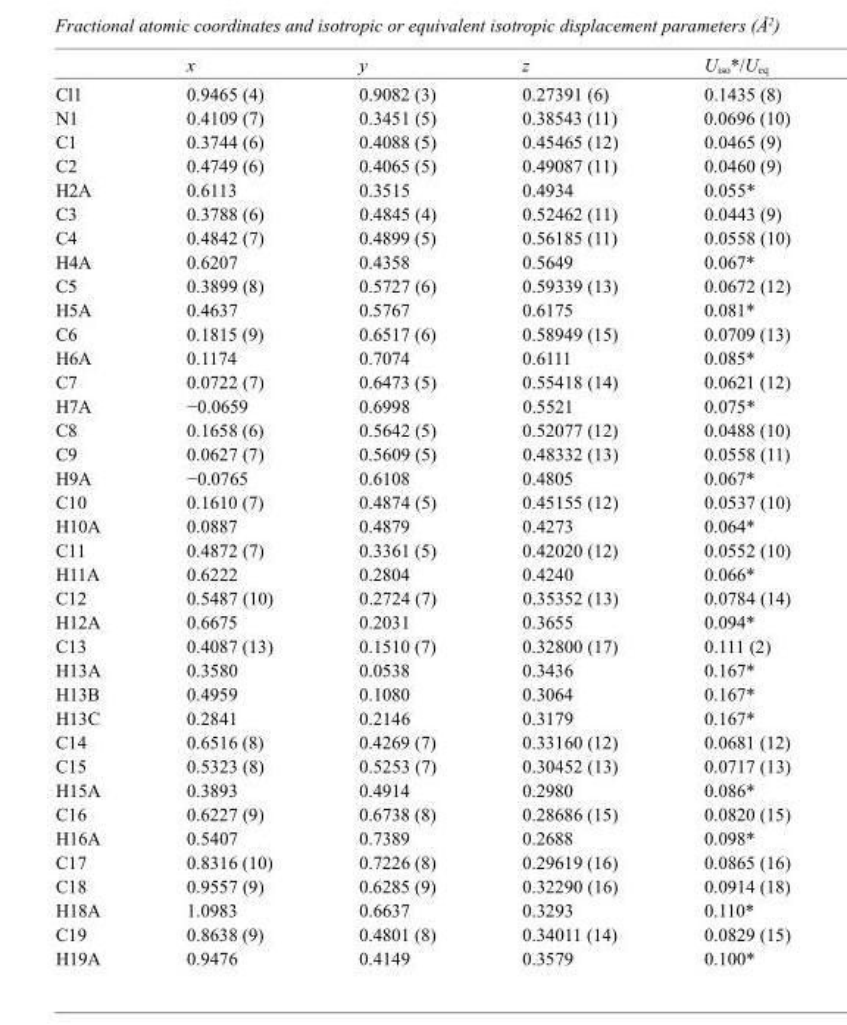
<table><thead><tr><td></td><td>x</td><td>y</td><td>z</td><td>U<sub>iso</sub>*/U<sub>eq</sub></td></tr></thead><tbody><tr><td>Cl1</td><td>0.9465 (4)</td><td>0.9082 (3)</td><td>0.27391 (6)</td><td>0.1435 (8)</td></tr><tr><td>N1</td><td>0.4109 (7)</td><td>0.3451 (5)</td><td>0.38543 (11)</td><td>0.0696 (10)</td></tr><tr><td>C1</td><td>0.3744 (6)</td><td>0.4088 (5)</td><td>0.45465 (12)</td><td>0.0465 (9)</td></tr><tr><td>C2</td><td>0.4749 (6)</td><td>0.4065 (5)</td><td>0.49087 (11)</td><td>0.0460 (9)</td></tr><tr><td>H2A</td><td>0.6113</td><td>0.3515</td><td>0.4934</td><td>0.055*</td></tr><tr><td>C3</td><td>0.3788 (6)</td><td>0.4845 (4)</td><td>0.52462 (11)</td><td>0.0443 (9)</td></tr><tr><td>C4</td><td>0.4842 (7)</td><td>0.4899 (5)</td><td>0.56185 (11)</td><td>0.0558 (10)</td></tr><tr><td>H4A</td><td>0.6207</td><td>0.4358</td><td>0.5649</td><td>0.067*</td></tr><tr><td>C5</td><td>0.3899 (8)</td><td>0.5727 (6)</td><td>0.59339 (13)</td><td>0.0672 (12)</td></tr><tr><td>H5A</td><td>0.4637</td><td>0.5767</td><td>0.6175</td><td>0.081*</td></tr><tr><td>C6</td><td>0.1815 (9)</td><td>0.6517 (6)</td><td>0.58949 (15)</td><td>0.0709 (13)</td></tr><tr><td>H6A</td><td>0.1174</td><td>0.7074</td><td>0.6111</td><td>0.085*</td></tr><tr><td>C7</td><td>0.0722 (7)</td><td>0.6473 (5)</td><td>0.55418 (14)</td><td>0.0621 (12)</td></tr><tr><td>H7A</td><td>−0.0659</td><td>0.6998</td><td>0.5521</td><td>0.075*</td></tr><tr><td>C8</td><td>0.1658 (6)</td><td>0.5642 (5)</td><td>0.52077 (12)</td><td>0.0488 (10)</td></tr><tr><td>C9</td><td>0.0627 (7)</td><td>0.5609 (5)</td><td>0.48332 (13)</td><td>0.0558 (11)</td></tr><tr><td>H9A</td><td>−0.0765</td><td>0.6108</td><td>0.4805</td><td>0.067*</td></tr><tr><td>C10</td><td>0.1610 (7)</td><td>0.4874 (5)</td><td>0.45155 (12)</td><td>0.0537 (10)</td></tr><tr><td>H10A</td><td>0.0887</td><td>0.4879</td><td>0.4273</td><td>0.064*</td></tr><tr><td>C11</td><td>0.4872 (7)</td><td>0.3361 (5)</td><td>0.42020 (12)</td><td>0.0552 (10)</td></tr><tr><td>H11A</td><td>0.6222</td><td>0.2804</td><td>0.4240</td><td>0.066*</td></tr><tr><td>C12</td><td>0.5487 (10)</td><td>0.2724 (7)</td><td>0.35352 (13)</td><td>0.0784 (14)</td></tr><tr><td>H12A</td><td>0.6675</td><td>0.2031</td><td>0.3655</td><td>0.094*</td></tr><tr><td>C13</td><td>0.4087 (13)</td><td>0.1510 (7)</td><td>0.32800 (17)</td><td>0.111 (2)</td></tr><tr><td>H13A</td><td>0.3580</td><td>0.0538</td><td>0.3436</td><td>0.167*</td></tr><tr><td>H13B</td><td>0.4959</td><td>0.1080</td><td>0.3064</td><td>0.167*</td></tr><tr><td>H13C</td><td>0.2841</td><td>0.2146</td><td>0.3179</td><td>0.167*</td></tr><tr><td>C14</td><td>0.6516 (8)</td><td>0.4269 (7)</td><td>0.33160 (12)</td><td>0.0681 (12)</td></tr><tr><td>C15</td><td>0.5323 (8)</td><td>0.5253 (7)</td><td>0.30452 (13)</td><td>0.0717 (13)</td></tr><tr><td>H15A</td><td>0.3893</td><td>0.4914</td><td>0.2980</td><td>0.086*</td></tr><tr><td>C16</td><td>0.6227 (9)</td><td>0.6738 (8)</td><td>0.28686 (15)</td><td>0.0820 (15)</td></tr><tr><td>H16A</td><td>0.5407</td><td>0.7389</td><td>0.2688</td><td>0.098*</td></tr><tr><td>C17</td><td>0.8316 (10)</td><td>0.7226 (8)</td><td>0.29619 (16)</td><td>0.0865 (16)</td></tr><tr><td>C18</td><td>0.9557 (9)</td><td>0.6285 (9)</td><td>0.32290 (16)</td><td>0.0914 (18)</td></tr><tr><td>H18A</td><td>1.0983</td><td>0.6637</td><td>0.3293</td><td>0.110*</td></tr><tr><td>C19</td><td>0.8638 (9)</td><td>0.4801 (8)</td><td>0.34011 (14)</td><td>0.0829 (15)</td></tr><tr><td>H19A</td><td>0.9476</td><td>0.4149</td><td>0.3579</td><td>0.100*</td></tr></tbody></table>